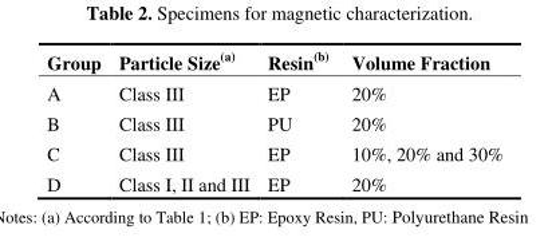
<table><thead><tr><td>Group</td><td>Particle Size<sup>(a)</sup></td><td>Resin<sup>(b)</sup></td><td>Volume Fraction</td></tr></thead><tbody><tr><td>A</td><td>Class III</td><td>EP</td><td>20%</td></tr><tr><td>B</td><td>Class III</td><td>PU</td><td>20%</td></tr><tr><td>C</td><td>Class III</td><td>EP</td><td>10%, 20% and 30%</td></tr><tr><td>D</td><td>Class I, II and III</td><td>EP</td><td>20%</td></tr></tbody></table>